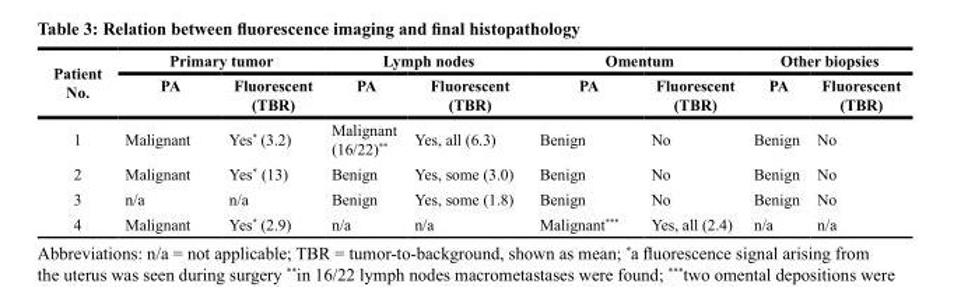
<table><thead><tr><td rowspan="2">Patient No.</td><td colspan="2">Primary tumor</td><td colspan="2">Lymph nodes</td><td colspan="2">Omentum</td><td colspan="2">Other biopsies</td></tr><tr><td>PA</td><td>Fluorescent (TBR)</td><td>PA</td><td>Fluorescent (TBR)</td><td>PA</td><td>Fluorescent (TBR)</td><td>PA</td><td>Fluorescent (TBR)</td></tr></thead><tbody><tr><td>1</td><td>Malignant</td><td>Yes* (3.2)</td><td>Malignant (16/22)**</td><td>Yes, all (6.3)</td><td>Benign</td><td>No</td><td>Benign</td><td>No</td></tr><tr><td>2</td><td>Malignant</td><td>Yes* (13)</td><td>Benign</td><td>Yes, some (3.0)</td><td>Benign</td><td>No</td><td>Benign</td><td>No</td></tr><tr><td>3</td><td>n/a</td><td>n/a</td><td>Benign</td><td>Yes, some (1.8)</td><td>Benign</td><td>No</td><td>Benign</td><td>No</td></tr><tr><td>4</td><td>Malignant</td><td>Yes* (2.9)</td><td>n/a</td><td>n/a</td><td>Malignant***</td><td>Yes, all (2.4)</td><td>n/a</td><td>n/a</td></tr></tbody></table>